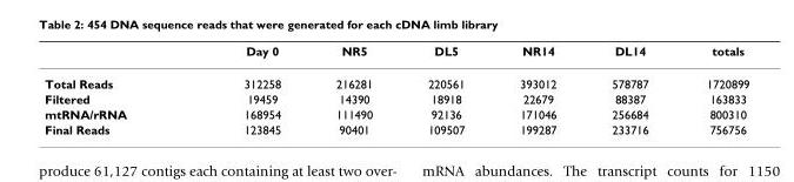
<table><thead><tr><td></td><td>Day 0</td><td>NR5</td><td>DL5</td><td>NR14</td><td>DL14</td><td>totals</td></tr></thead><tbody><tr><td>Total Reads</td><td>312258</td><td>216281</td><td>220561</td><td>393012</td><td>578787</td><td>1720899</td></tr><tr><td>Filtered</td><td>19459</td><td>14390</td><td>18918</td><td>22679</td><td>88387</td><td>163833</td></tr><tr><td>mtRNA/rRNA</td><td>168954</td><td>111490</td><td>92136</td><td>171046</td><td>256684</td><td>800310</td></tr><tr><td>Final Reads</td><td>123845</td><td>90401</td><td>109507</td><td>199287</td><td>233716</td><td>756756</td></tr></tbody></table>